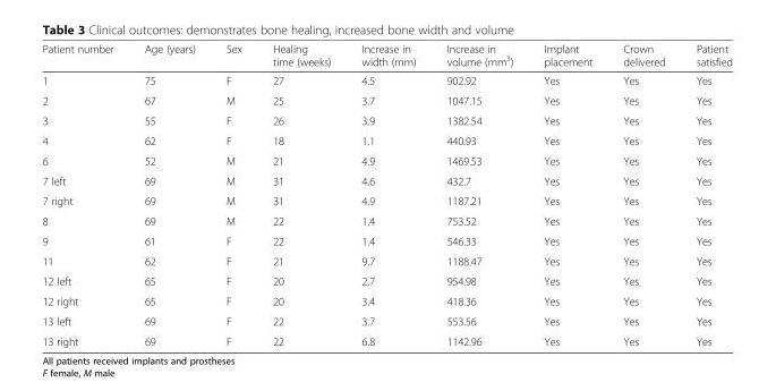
<table><thead><tr><td>Patient number</td><td>Age (years)</td><td>Sex</td><td>Healing time (weeks)</td><td>Increase in width (mm)</td><td>Increase in volume (mm<sup>3</sup>)</td><td>Implant placement</td><td>Crown delivered</td><td>Patient satisfied</td></tr></thead><tbody><tr><td>1</td><td>75</td><td>F</td><td>27</td><td>4.5</td><td>902.92</td><td>Yes</td><td>Yes</td><td>Yes</td></tr><tr><td>2</td><td>67</td><td>M</td><td>25</td><td>3.7</td><td>1047.15</td><td>Yes</td><td>Yes</td><td>Yes</td></tr><tr><td>3</td><td>55</td><td>F</td><td>26</td><td>3.9</td><td>1382.54</td><td>Yes</td><td>Yes</td><td>Yes</td></tr><tr><td>4</td><td>62</td><td>F</td><td>18</td><td>1.1</td><td>440.93</td><td>Yes</td><td>Yes</td><td>Yes</td></tr><tr><td>6</td><td>52</td><td>M</td><td>21</td><td>4.9</td><td>1469.53</td><td>Yes</td><td>Yes</td><td>Yes</td></tr><tr><td>7 left</td><td>69</td><td>M</td><td>31</td><td>4.6</td><td>432.7</td><td>Yes</td><td>Yes</td><td>Yes</td></tr><tr><td>7 right</td><td>69</td><td>M</td><td>31</td><td>4.9</td><td>1187.21</td><td>Yes</td><td>Yes</td><td>Yes</td></tr><tr><td>8</td><td>69</td><td>M</td><td>22</td><td>1.4</td><td>753.52</td><td>Yes</td><td>Yes</td><td>Yes</td></tr><tr><td>9</td><td>61</td><td>F</td><td>22</td><td>1.4</td><td>546.33</td><td>Yes</td><td>Yes</td><td>Yes</td></tr><tr><td>11</td><td>62</td><td>F</td><td>21</td><td>9.7</td><td>1188.47</td><td>Yes</td><td>Yes</td><td>Yes</td></tr><tr><td>12 left</td><td>65</td><td>F</td><td>20</td><td>2.7</td><td>954.98</td><td>Yes</td><td>Yes</td><td>Yes</td></tr><tr><td>12 right</td><td>65</td><td>F</td><td>20</td><td>3.4</td><td>418.36</td><td>Yes</td><td>Yes</td><td>Yes</td></tr><tr><td>13 left</td><td>69</td><td>F</td><td>22</td><td>3.7</td><td>553.56</td><td>Yes</td><td>Yes</td><td>Yes</td></tr><tr><td>13 right</td><td>69</td><td>F</td><td>22</td><td>6.8</td><td>1142.96</td><td>Yes</td><td>Yes</td><td>Yes</td></tr></tbody></table>